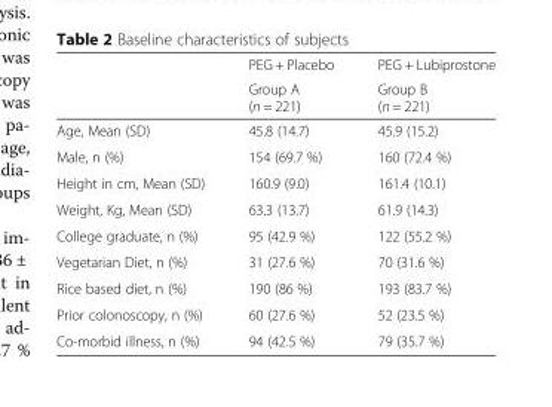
<table><thead><tr><td rowspan="2"></td><td rowspan="2">PEG + Placebo Group A (n = 221)</td><td rowspan="2">PEG + Lubiprostone Group B (n = 221)</td></tr><tr></tr></thead><tbody><tr><td>Age, Mean (SD)</td><td>45.8 (14.7)</td><td>45.9 (15.2)</td></tr><tr><td>Male, n (%)</td><td>154 (69.7 %)</td><td>160 (72.4 %)</td></tr><tr><td>Height in cm, Mean (SD)</td><td>160.9 (9.0)</td><td>161.4 (10.1)</td></tr><tr><td>Weight, Kg, Mean (SD)</td><td>63.3 (13.7)</td><td>61.9 (14.3)</td></tr><tr><td>College graduate, n (%)</td><td>95 (42.9 %)</td><td>122 (55.2 %)</td></tr><tr><td>Vegetarian Diet, n (%)</td><td>31 (27.6 %)</td><td>70 (31.6 %)</td></tr><tr><td>Rice based diet, n (%)</td><td>190 (86 %)</td><td>193 (83.7 %)</td></tr><tr><td>Prior colonoscopy, n (%)</td><td>60 (27.6 %)</td><td>52 (23.5 %)</td></tr><tr><td>Co-morbid illness, n (%)</td><td>94 (42.5 %)</td><td>79 (35.7 %)</td></tr></tbody></table>